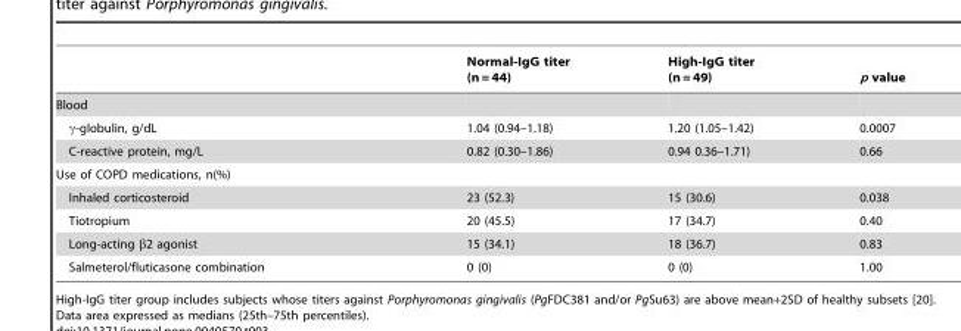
<table><thead><tr><td></td><td>Normal-IgG titer (n = 44)</td><td>High-IgG titer (n = 49)</td><td>p value</td></tr></thead><tbody><tr><td colspan="4">Blood</td></tr><tr><td>γ-globulin, g/dL</td><td>1.04 (0.94–1.18)</td><td>1.20 (1.05–1.42)</td><td>0.0007</td></tr><tr><td>C-reactive protein, mg/L</td><td>0.82 (0.30–1.86)</td><td>0.94 0.36–1.71)</td><td>0.66</td></tr><tr><td colspan="4">Use of COPD medications, n(%)</td></tr><tr><td>Inhaled corticosteroid</td><td>23 (52.3)</td><td>15 (30.6)</td><td>0.038</td></tr><tr><td>Tiotropium</td><td>20 (45.5)</td><td>17 (34.7)</td><td>0.40</td></tr><tr><td>Long-acting β2 agonist</td><td>15 (34.1)</td><td>18 (36.7)</td><td>0.83</td></tr><tr><td>Salmeterol/fluticasone combination</td><td>0 (0)</td><td>0 (0)</td><td>1.00</td></tr></tbody></table>